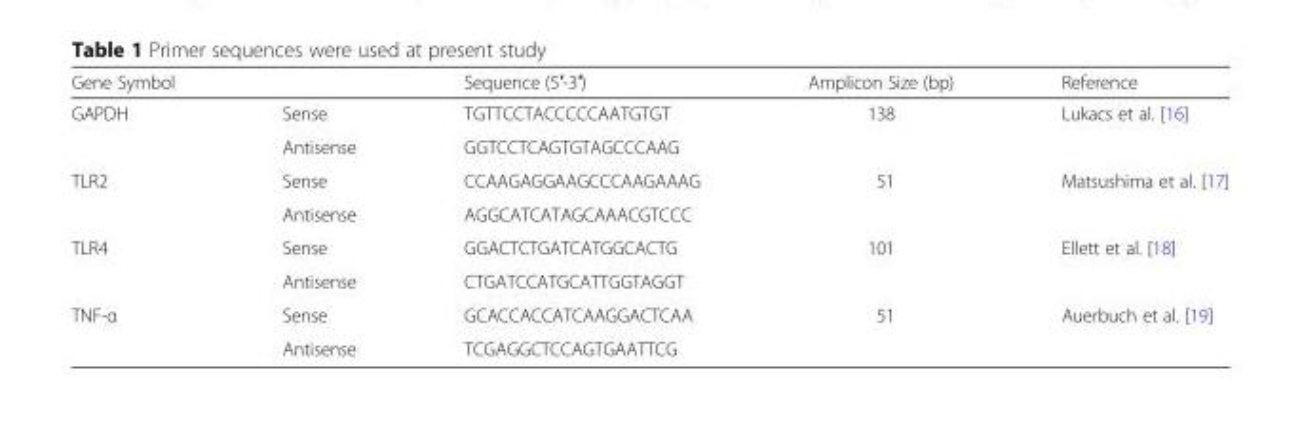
<table><thead><tr><td>Gene Symbol</td><td></td><td>Sequence (5′-3′)</td><td>Amplicon Size (bp)</td><td>Reference</td></tr></thead><tbody><tr><td rowspan="2">GAPDH</td><td>Sense</td><td>TGTTCCTACCCCCAATGTGT</td><td rowspan="2">138</td><td rowspan="2">Lukacs et al. [16]</td></tr><tr><td>Antisense</td><td>GGTCCTCAGTGTAGCCCAAG</td></tr><tr><td rowspan="2">TLR2</td><td>Sense</td><td>CCAAGAGGAAGCCCAAGAAAG</td><td rowspan="2">51</td><td rowspan="2">Matsushima et al. [17]</td></tr><tr><td>Antisense</td><td>AGGCATCATAGCAAACGTCCC</td></tr><tr><td rowspan="2">TLR4</td><td>Sense</td><td>GGACTCTGATCATGGCACTG</td><td rowspan="2">101</td><td rowspan="2">Ellett et al. [18]</td></tr><tr><td>Antisense</td><td>CTGATCCATGCATTGGTAGGT</td></tr><tr><td rowspan="2">TNF-α</td><td>Sense</td><td>GCACCACCATCAAGGACTCAA</td><td rowspan="2">51</td><td rowspan="2">Auerbuch et al. [19]</td></tr><tr><td>Antisense</td><td>TCGAGGCTCCAGTGAATTCG</td></tr></tbody></table>